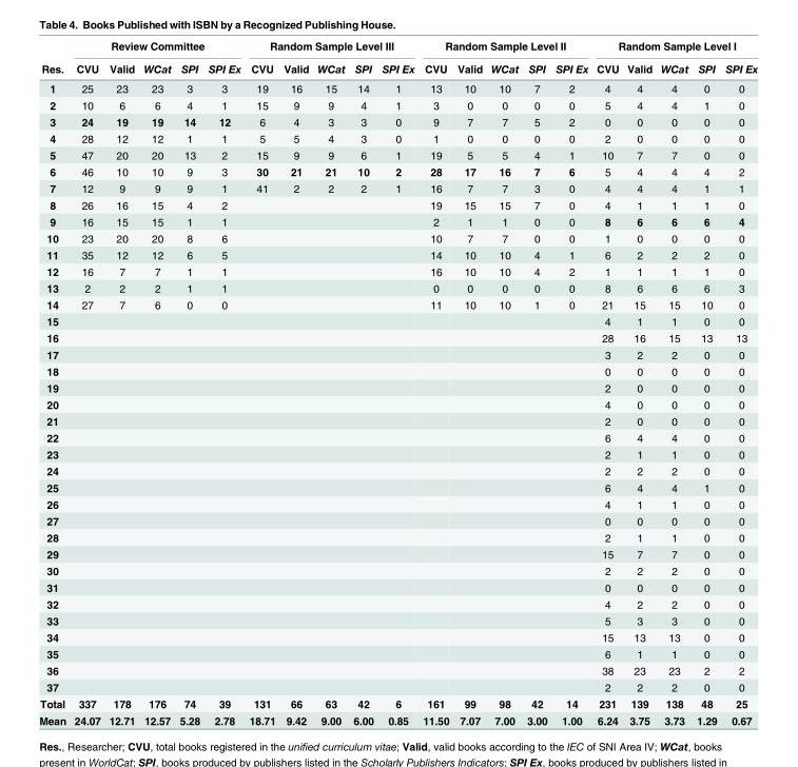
<table><thead><tr><td rowspan="2">Res.</td><td colspan="5">Review Committee</td><td colspan="5">Random Sample Level III</td><td colspan="5">Random Sample Level II</td><td colspan="5">Random Sample Level I</td></tr><tr><td>CVU</td><td>Valid</td><td>WCat</td><td>SPI</td><td>SPI Ex</td><td>CVU</td><td>Valid</td><td>WCat</td><td>SPI</td><td>SPI Ex</td><td>CVU</td><td>Valid</td><td>WCat</td><td>SPI</td><td>SPI Ex</td><td>CVU</td><td>Valid</td><td>WCat</td><td>SPI</td><td>SPI Ex</td></tr></thead><tbody><tr><td>1</td><td>25</td><td>23</td><td>23</td><td>3</td><td>3</td><td>19</td><td>16</td><td>15</td><td>14</td><td>1</td><td>13</td><td>10</td><td>10</td><td>7</td><td>2</td><td>4</td><td>4</td><td>4</td><td>0</td><td>0</td></tr><tr><td>2</td><td>10</td><td>6</td><td>6</td><td>4</td><td>1</td><td>15</td><td>9</td><td>9</td><td>4</td><td>1</td><td>3</td><td>0</td><td>0</td><td>0</td><td>0</td><td>5</td><td>4</td><td>4</td><td>1</td><td>0</td></tr><tr><td>3</td><td>24</td><td>19</td><td>19</td><td>14</td><td>12</td><td>6</td><td>4</td><td>3</td><td>3</td><td>0</td><td>9</td><td>7</td><td>7</td><td>5</td><td>2</td><td>0</td><td>0</td><td>0</td><td>0</td><td>0</td></tr><tr><td>4</td><td>28</td><td>12</td><td>12</td><td>1</td><td>1</td><td>5</td><td>5</td><td>4</td><td>3</td><td>0</td><td>1</td><td>0</td><td>0</td><td>0</td><td>0</td><td>2</td><td>0</td><td>0</td><td>0</td><td>0</td></tr><tr><td>5</td><td>47</td><td>20</td><td>20</td><td>13</td><td>2</td><td>15</td><td>9</td><td>9</td><td>6</td><td>1</td><td>19</td><td>5</td><td>5</td><td>4</td><td>1</td><td>10</td><td>7</td><td>7</td><td>0</td><td>0</td></tr><tr><td>6</td><td>46</td><td>10</td><td>10</td><td>9</td><td>3</td><td>30</td><td>21</td><td>21</td><td>10</td><td>2</td><td>28</td><td>17</td><td>16</td><td>7</td><td>6</td><td>5</td><td>4</td><td>4</td><td>4</td><td>2</td></tr><tr><td>7</td><td>12</td><td>9</td><td>9</td><td>9</td><td>1</td><td>41</td><td>2</td><td>2</td><td>2</td><td>1</td><td>16</td><td>7</td><td>7</td><td>3</td><td>0</td><td>4</td><td>4</td><td>4</td><td>1</td><td>1</td></tr><tr><td>8</td><td>26</td><td>16</td><td>15</td><td>4</td><td>2</td><td></td><td></td><td></td><td></td><td></td><td>19</td><td>15</td><td>15</td><td>7</td><td>0</td><td>4</td><td>1</td><td>1</td><td>1</td><td>0</td></tr><tr><td>9</td><td>16</td><td>15</td><td>15</td><td>1</td><td>1</td><td></td><td></td><td></td><td></td><td></td><td>2</td><td>1</td><td>1</td><td>0</td><td>0</td><td>8</td><td>6</td><td>6</td><td>6</td><td>4</td></tr><tr><td>10</td><td>23</td><td>20</td><td>20</td><td>8</td><td>6</td><td></td><td></td><td></td><td></td><td></td><td>10</td><td>7</td><td>7</td><td>0</td><td>0</td><td>1</td><td>0</td><td>0</td><td>0</td><td>0</td></tr><tr><td>11</td><td>35</td><td>12</td><td>12</td><td>6</td><td>5</td><td></td><td></td><td></td><td></td><td></td><td>14</td><td>10</td><td>10</td><td>4</td><td>1</td><td>6</td><td>2</td><td>2</td><td>2</td><td>0</td></tr><tr><td>12</td><td>16</td><td>7</td><td>7</td><td>1</td><td>1</td><td></td><td></td><td></td><td></td><td></td><td>16</td><td>10</td><td>10</td><td>4</td><td>2</td><td>1</td><td>1</td><td>1</td><td>1</td><td>0</td></tr><tr><td>13</td><td>2</td><td>2</td><td>2</td><td>1</td><td>1</td><td></td><td></td><td></td><td></td><td></td><td>0</td><td>0</td><td>0</td><td>0</td><td>0</td><td>8</td><td>6</td><td>6</td><td>6</td><td>3</td></tr><tr><td>14</td><td>27</td><td>7</td><td>6</td><td>0</td><td>0</td><td></td><td></td><td></td><td></td><td></td><td>11</td><td>10</td><td>10</td><td>1</td><td>0</td><td>21</td><td>15</td><td>15</td><td>10</td><td>0</td></tr><tr><td>15</td><td></td><td></td><td></td><td></td><td></td><td></td><td></td><td></td><td></td><td></td><td></td><td></td><td></td><td></td><td></td><td>4</td><td>1</td><td>1</td><td>0</td><td>0</td></tr><tr><td>16</td><td></td><td></td><td></td><td></td><td></td><td></td><td></td><td></td><td></td><td></td><td></td><td></td><td></td><td></td><td></td><td>28</td><td>16</td><td>15</td><td>13</td><td>13</td></tr><tr><td>17</td><td></td><td></td><td></td><td></td><td></td><td></td><td></td><td></td><td></td><td></td><td></td><td></td><td></td><td></td><td></td><td>3</td><td>2</td><td>2</td><td>0</td><td>0</td></tr><tr><td>18</td><td></td><td></td><td></td><td></td><td></td><td></td><td></td><td></td><td></td><td></td><td></td><td></td><td></td><td></td><td></td><td>0</td><td>0</td><td>0</td><td>0</td><td>0</td></tr><tr><td>19</td><td></td><td></td><td></td><td></td><td></td><td></td><td></td><td></td><td></td><td></td><td></td><td></td><td></td><td></td><td></td><td>2</td><td>0</td><td>0</td><td>0</td><td>0</td></tr><tr><td>20</td><td></td><td></td><td></td><td></td><td></td><td></td><td></td><td></td><td></td><td></td><td></td><td></td><td></td><td></td><td></td><td>4</td><td>0</td><td>0</td><td>0</td><td>0</td></tr><tr><td>21</td><td></td><td></td><td></td><td></td><td></td><td></td><td></td><td></td><td></td><td></td><td></td><td></td><td></td><td></td><td></td><td>2</td><td>0</td><td>0</td><td>0</td><td>0</td></tr><tr><td>22</td><td></td><td></td><td></td><td></td><td></td><td></td><td></td><td></td><td></td><td></td><td></td><td></td><td></td><td></td><td></td><td>6</td><td>4</td><td>4</td><td>0</td><td>0</td></tr><tr><td>23</td><td></td><td></td><td></td><td></td><td></td><td></td><td></td><td></td><td></td><td></td><td></td><td></td><td></td><td></td><td></td><td>2</td><td>1</td><td>1</td><td>0</td><td>0</td></tr><tr><td>24</td><td></td><td></td><td></td><td></td><td></td><td></td><td></td><td></td><td></td><td></td><td></td><td></td><td></td><td></td><td></td><td>2</td><td>2</td><td>2</td><td>0</td><td>0</td></tr><tr><td>25</td><td></td><td></td><td></td><td></td><td></td><td></td><td></td><td></td><td></td><td></td><td></td><td></td><td></td><td></td><td></td><td>6</td><td>4</td><td>4</td><td>1</td><td>0</td></tr><tr><td>26</td><td></td><td></td><td></td><td></td><td></td><td></td><td></td><td></td><td></td><td></td><td></td><td></td><td></td><td></td><td></td><td>4</td><td>1</td><td>1</td><td>0</td><td>0</td></tr><tr><td>27</td><td></td><td></td><td></td><td></td><td></td><td></td><td></td><td></td><td></td><td></td><td></td><td></td><td></td><td></td><td></td><td>0</td><td>0</td><td>0</td><td>0</td><td>0</td></tr><tr><td>28</td><td></td><td></td><td></td><td></td><td></td><td></td><td></td><td></td><td></td><td></td><td></td><td></td><td></td><td></td><td></td><td>2</td><td>1</td><td>1</td><td>0</td><td>0</td></tr><tr><td>29</td><td></td><td></td><td></td><td></td><td></td><td></td><td></td><td></td><td></td><td></td><td></td><td></td><td></td><td></td><td></td><td>15</td><td>7</td><td>7</td><td>0</td><td>0</td></tr><tr><td>30</td><td></td><td></td><td></td><td></td><td></td><td></td><td></td><td></td><td></td><td></td><td></td><td></td><td></td><td></td><td></td><td>2</td><td>2</td><td>2</td><td>0</td><td>0</td></tr><tr><td>31</td><td></td><td></td><td></td><td></td><td></td><td></td><td></td><td></td><td></td><td></td><td></td><td></td><td></td><td></td><td></td><td>0</td><td>0</td><td>0</td><td>0</td><td>0</td></tr><tr><td>32</td><td></td><td></td><td></td><td></td><td></td><td></td><td></td><td></td><td></td><td></td><td></td><td></td><td></td><td></td><td></td><td>4</td><td>2</td><td>2</td><td>0</td><td>0</td></tr><tr><td>33</td><td></td><td></td><td></td><td></td><td></td><td></td><td></td><td></td><td></td><td></td><td></td><td></td><td></td><td></td><td></td><td>5</td><td>3</td><td>3</td><td>0</td><td>0</td></tr><tr><td>34</td><td></td><td></td><td></td><td></td><td></td><td></td><td></td><td></td><td></td><td></td><td></td><td></td><td></td><td></td><td></td><td>15</td><td>13</td><td>13</td><td>0</td><td>0</td></tr><tr><td>35</td><td></td><td></td><td></td><td></td><td></td><td></td><td></td><td></td><td></td><td></td><td></td><td></td><td></td><td></td><td></td><td>6</td><td>1</td><td>1</td><td>0</td><td>0</td></tr><tr><td>36</td><td></td><td></td><td></td><td></td><td></td><td></td><td></td><td></td><td></td><td></td><td></td><td></td><td></td><td></td><td></td><td>38</td><td>23</td><td>23</td><td>2</td><td>2</td></tr><tr><td>37</td><td></td><td></td><td></td><td></td><td></td><td></td><td></td><td></td><td></td><td></td><td></td><td></td><td></td><td></td><td></td><td>2</td><td>2</td><td>2</td><td>0</td><td>0</td></tr><tr><td>Total</td><td>337</td><td>178</td><td>176</td><td>74</td><td>39</td><td>131</td><td>66</td><td>63</td><td>42</td><td>6</td><td>161</td><td>99</td><td>98</td><td>42</td><td>14</td><td>231</td><td>139</td><td>138</td><td>48</td><td>25</td></tr><tr><td>Mean</td><td>24.07</td><td>12.71</td><td>12.57</td><td>5.28</td><td>2.78</td><td>18.71</td><td>9.42</td><td>9.00</td><td>6.00</td><td>0.85</td><td>11.50</td><td>7.07</td><td>7.00</td><td>3.00</td><td>1.00</td><td>6.24</td><td>3.75</td><td>3.73</td><td>1.29</td><td>0.67</td></tr></tbody></table>